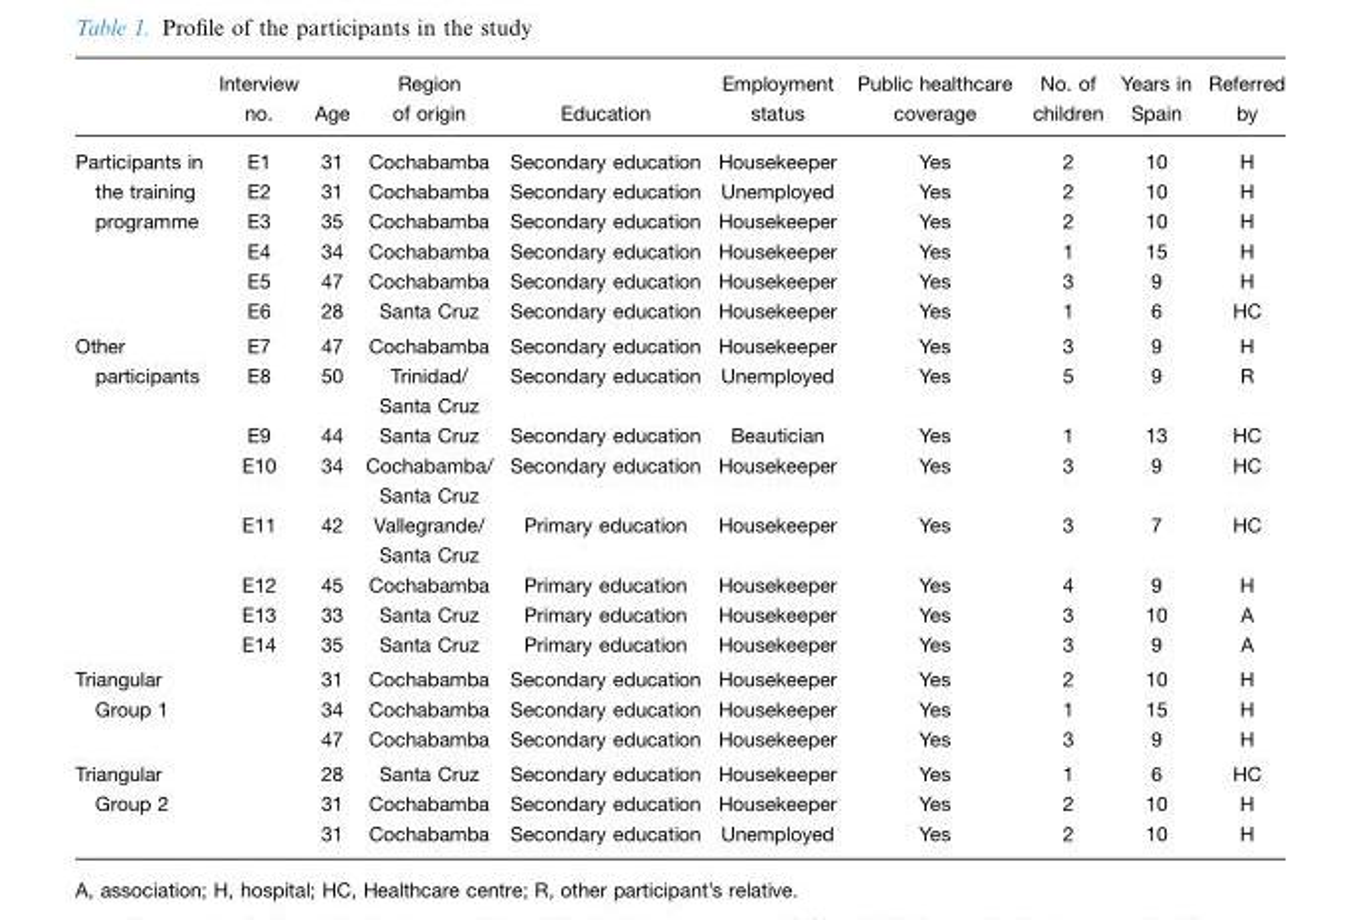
<table><thead><tr><td></td><td>Interview no.</td><td>Age</td><td>Region of origin</td><td>Education</td><td>Employment status</td><td>Public healthcare coverage</td><td>No. of children</td><td>Years in Spain</td><td>Referred by</td></tr></thead><tbody><tr><td>Participants in</td><td>E1</td><td>31</td><td>Cochabamba</td><td>Secondary education</td><td>Housekeeper</td><td>Yes</td><td>2</td><td>10</td><td>H</td></tr><tr><td>the training</td><td>E2</td><td>31</td><td>Cochabamba</td><td>Secondary education</td><td>Unemployed</td><td>Yes</td><td>2</td><td>10</td><td>H</td></tr><tr><td rowspan="4">programme</td><td>E3</td><td>35</td><td>Cochabamba</td><td>Secondary education</td><td>Housekeeper</td><td>Yes</td><td>2</td><td>10</td><td>H</td></tr><tr><td>E4</td><td>34</td><td>Cochabamba</td><td>Secondary education</td><td>Housekeeper</td><td>Yes</td><td>1</td><td>15</td><td>H</td></tr><tr><td>E5</td><td>47</td><td>Cochabamba</td><td>Secondary education</td><td>Housekeeper</td><td>Yes</td><td>3</td><td>9</td><td>H</td></tr><tr><td>E6</td><td>28</td><td>Santa Cruz</td><td>Secondary education</td><td>Housekeeper</td><td>Yes</td><td>1</td><td>6</td><td>HC</td></tr><tr><td>Other</td><td>E7</td><td>47</td><td>Cochabamba</td><td>Secondary education</td><td>Housekeeper</td><td>Yes</td><td>3</td><td>9</td><td>H</td></tr><tr><td rowspan="7">participants</td><td>E8</td><td>50</td><td>Trinidad/ Santa Cruz</td><td>Secondary education</td><td>Unemployed</td><td>Yes</td><td>5</td><td>9</td><td>R</td></tr><tr><td>E9</td><td>44</td><td>Santa Cruz</td><td>Secondary education</td><td>Beautician</td><td>Yes</td><td>1</td><td>13</td><td>HC</td></tr><tr><td>E10</td><td>34</td><td>Cochabamba/ Santa Cruz</td><td>Secondary education</td><td>Housekeeper</td><td>Yes</td><td>3</td><td>9</td><td>HC</td></tr><tr><td>E11</td><td>42</td><td>Vallegrande/ Santa Cruz</td><td>Primary education</td><td>Housekeeper</td><td>Yes</td><td>3</td><td>7</td><td>HC</td></tr><tr><td>E12</td><td>45</td><td>Cochabamba</td><td>Primary education</td><td>Housekeeper</td><td>Yes</td><td>4</td><td>9</td><td>H</td></tr><tr><td>E13</td><td>33</td><td>Santa Cruz</td><td>Primary education</td><td>Housekeeper</td><td>Yes</td><td>3</td><td>10</td><td>A</td></tr><tr><td>E14</td><td>35</td><td>Santa Cruz</td><td>Primary education</td><td>Housekeeper</td><td>Yes</td><td>3</td><td>9</td><td>A</td></tr><tr><td>Triangular</td><td></td><td>31</td><td>Cochabamba</td><td>Secondary education</td><td>Housekeeper</td><td>Yes</td><td>2</td><td>10</td><td>H</td></tr><tr><td rowspan="2">Group 1</td><td></td><td>34</td><td>Cochabamba</td><td>Secondary education</td><td>Housekeeper</td><td>Yes</td><td>1</td><td>15</td><td>H</td></tr><tr><td></td><td>47</td><td>Cochabamba</td><td>Secondary education</td><td>Housekeeper</td><td>Yes</td><td>3</td><td>9</td><td>H</td></tr><tr><td>Triangular</td><td></td><td>28</td><td>Santa Cruz</td><td>Secondary education</td><td>Housekeeper</td><td>Yes</td><td>1</td><td>6</td><td>HC</td></tr><tr><td rowspan="2">Group 2</td><td></td><td>31</td><td>Cochabamba</td><td>Secondary education</td><td>Housekeeper</td><td>Yes</td><td>2</td><td>10</td><td>H</td></tr><tr><td></td><td>31</td><td>Cochabamba</td><td>Secondary education</td><td>Unemployed</td><td>Yes</td><td>2</td><td>10</td><td>H</td></tr></tbody></table>